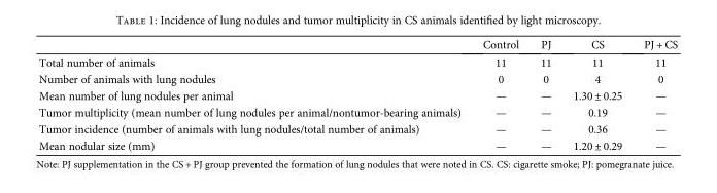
<table><thead><tr><td></td><td>Control</td><td>PJ</td><td>CS</td><td>PJ + CS</td></tr></thead><tbody><tr><td>Total number of animals</td><td>11</td><td>11</td><td>11</td><td>11</td></tr><tr><td>Number of animals with lung nodules</td><td>0</td><td>0</td><td>4</td><td>0</td></tr><tr><td>Mean number of lung nodules per animal</td><td>—</td><td>—</td><td>1.30 ± 0.25</td><td>—</td></tr><tr><td>Tumor multiplicity (mean number of lung nodules per animal/nontumor-bearing animals)</td><td>—</td><td>—</td><td>0.19</td><td>—</td></tr><tr><td>Tumor incidence (number of animals with lung nodules/total number of animals)</td><td>—</td><td>—</td><td>0.36</td><td>—</td></tr><tr><td>Mean nodular size (mm)</td><td>—</td><td>—</td><td>1.20 ± 0.29</td><td>—</td></tr></tbody></table>